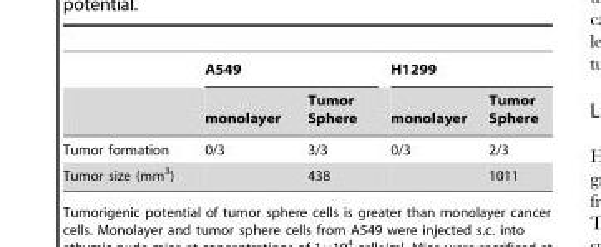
<table><thead><tr><td rowspan="2"></td><td colspan="2">A549</td><td colspan="2">H1299</td></tr><tr><td>monolayer</td><td>Tumor Sphere</td><td>monolayer</td><td>Tumor Sphere</td></tr></thead><tbody><tr><td>Tumor formation</td><td>0/3</td><td>3/3</td><td>0/3</td><td>2/3</td></tr><tr><td>Tumor size (mm<sup>3</sup>)</td><td></td><td>438</td><td></td><td>1011</td></tr></tbody></table>